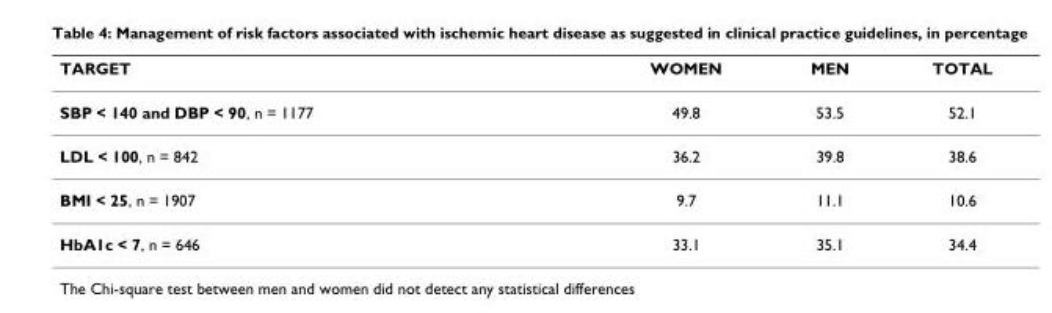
<table><thead><tr><td>TARGET</td><td>WOMEN</td><td>MEN</td><td>TOTAL</td></tr></thead><tbody><tr><td>SBP &lt; 140 and DBP &lt; 90, n = 1177</td><td>49.8</td><td>53.5</td><td>52.1</td></tr><tr><td>LDL &lt; 100, n = 842</td><td>36.2</td><td>39.8</td><td>38.6</td></tr><tr><td>BMI &lt; 25, n = 1907</td><td>9.7</td><td>11.1</td><td>10.6</td></tr><tr><td>HbA1c &lt; 7, n = 646</td><td>33.1</td><td>35.1</td><td>34.4</td></tr></tbody></table>